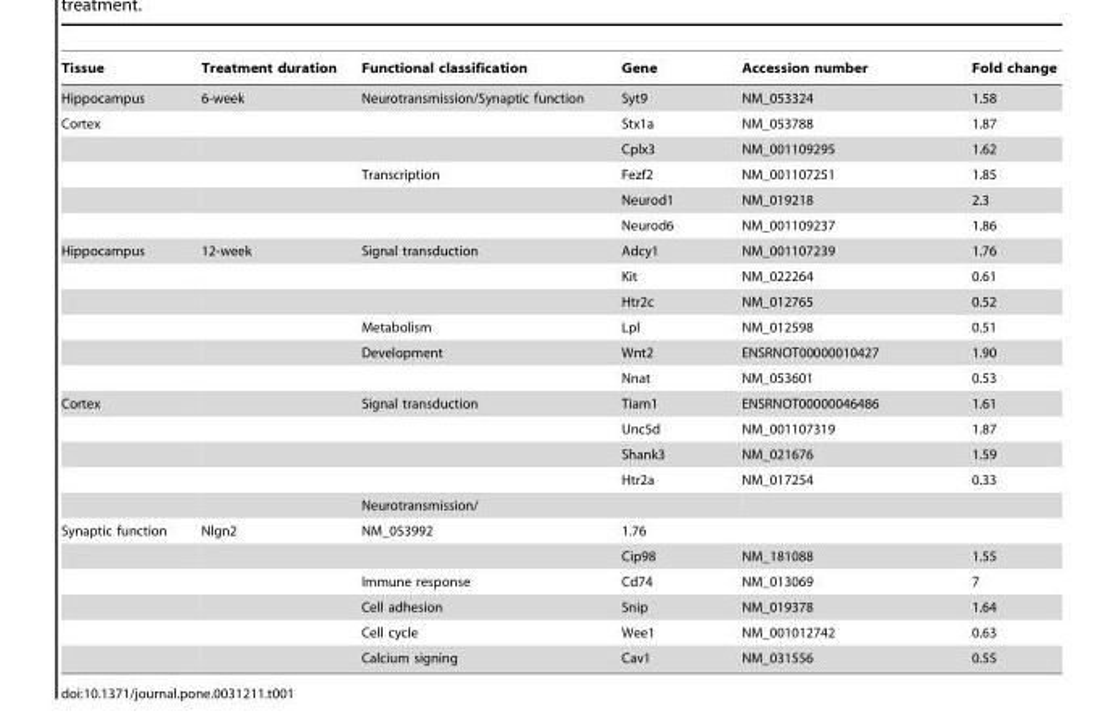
<table><thead><tr><td>Tissue</td><td>Treatment duration</td><td>Functional classification</td><td>Gene</td><td>Accession number</td><td>Fold change</td></tr></thead><tbody><tr><td>Hippocampus</td><td>6-week</td><td>Neurotransmission/Synaptic function</td><td>Syt9</td><td>NM_053324</td><td>1.58</td></tr><tr><td rowspan="5">Cortex</td><td></td><td></td><td>Stx1a</td><td>NM_053788</td><td>1.87</td></tr><tr><td></td><td></td><td>Cplx3</td><td>NM_001109295</td><td>1.62</td></tr><tr><td></td><td>Transcription</td><td>Fezf2</td><td>NM_001107251</td><td>1.85</td></tr><tr><td></td><td></td><td>Neurod1</td><td>NM_019218</td><td>2.3</td></tr><tr><td></td><td></td><td>Neurod6</td><td>NM_001109237</td><td>1.86</td></tr><tr><td rowspan="6">Hippocampus</td><td>12-week</td><td>Signal transduction</td><td>Adcy1</td><td>NM_001107239</td><td>1.76</td></tr><tr><td></td><td></td><td>Kit</td><td>NM_022264</td><td>0.61</td></tr><tr><td></td><td></td><td>Htr2c</td><td>NM_012765</td><td>0.52</td></tr><tr><td></td><td>Metabolism</td><td>Lpl</td><td>NM_012598</td><td>0.51</td></tr><tr><td></td><td>Development</td><td>Wnt2</td><td>ENSRNOT00000010427</td><td>1.90</td></tr><tr><td></td><td></td><td>Nnat</td><td>NM_053601</td><td>0.53</td></tr><tr><td rowspan="5">Cortex</td><td></td><td>Signal transduction</td><td>Tiam1</td><td>ENSRNOT00000046486</td><td>1.61</td></tr><tr><td></td><td></td><td>Unc5d</td><td>NM_001107319</td><td>1.87</td></tr><tr><td></td><td></td><td>Shank3</td><td>NM_021676</td><td>1.59</td></tr><tr><td></td><td></td><td>Htr2a</td><td>NM_017254</td><td>0.33</td></tr><tr><td></td><td>Neurotransmission/</td><td></td><td></td><td></td></tr><tr><td rowspan="6">Synaptic function</td><td>Nlgn2</td><td>NM_053992</td><td>1.76</td><td></td><td></td></tr><tr><td></td><td></td><td>Cip98</td><td>NM_181088</td><td>1.55</td></tr><tr><td></td><td>Immune response</td><td>Cd74</td><td>NM_013069</td><td>7</td></tr><tr><td></td><td>Cell adhesion</td><td>Snip</td><td>NM_019378</td><td>1.64</td></tr><tr><td></td><td>Cell cycle</td><td>Wee1</td><td>NM_001012742</td><td>0.63</td></tr><tr><td></td><td>Calcium signing</td><td>Cav1</td><td>NM_031556</td><td>0.55</td></tr></tbody></table>